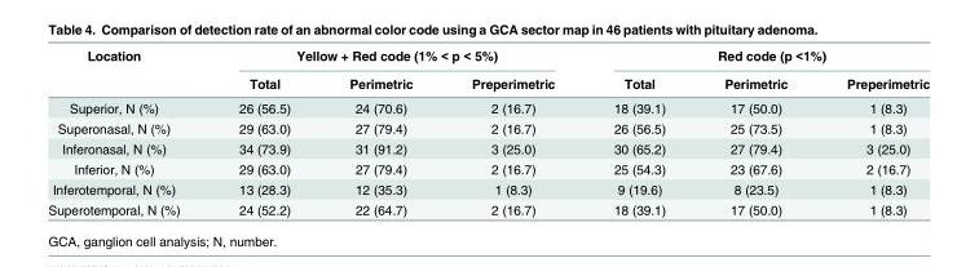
<table><thead><tr><td rowspan="2">Location</td><td colspan="3">Yellow + Red code (1% &lt; p &lt; 5%)</td><td colspan="3">Red code (p &lt;1%)</td></tr><tr><td>Total</td><td>Perimetric</td><td>Preperimetric</td><td>Total</td><td>Perimetric</td><td>Preperimetric</td></tr></thead><tbody><tr><td>Superior, N (%)</td><td>26 (56.5)</td><td>24 (70.6)</td><td>2 (16.7)</td><td>18 (39.1)</td><td>17 (50.0)</td><td>1 (8.3)</td></tr><tr><td>Superonasal, N (%)</td><td>29 (63.0)</td><td>27 (79.4)</td><td>2 (16.7)</td><td>26 (56.5)</td><td>25 (73.5)</td><td>1 (8.3)</td></tr><tr><td>Inferonasal, N (%)</td><td>34 (73.9)</td><td>31 (91.2)</td><td>3 (25.0)</td><td>30 (65.2)</td><td>27 (79.4)</td><td>3 (25.0)</td></tr><tr><td>Inferior, N (%)</td><td>29 (63.0)</td><td>27 (79.4)</td><td>2 (16.7)</td><td>25 (54.3)</td><td>23 (67.6)</td><td>2 (16.7)</td></tr><tr><td>Inferotemporal, N (%)</td><td>13 (28.3)</td><td>12 (35.3)</td><td>1 (8.3)</td><td>9 (19.6)</td><td>8 (23.5)</td><td>1 (8.3)</td></tr><tr><td>Superotemporal, N (%)</td><td>24 (52.2)</td><td>22 (64.7)</td><td>2 (16.7)</td><td>18 (39.1)</td><td>17 (50.0)</td><td>1 (8.3)</td></tr></tbody></table>